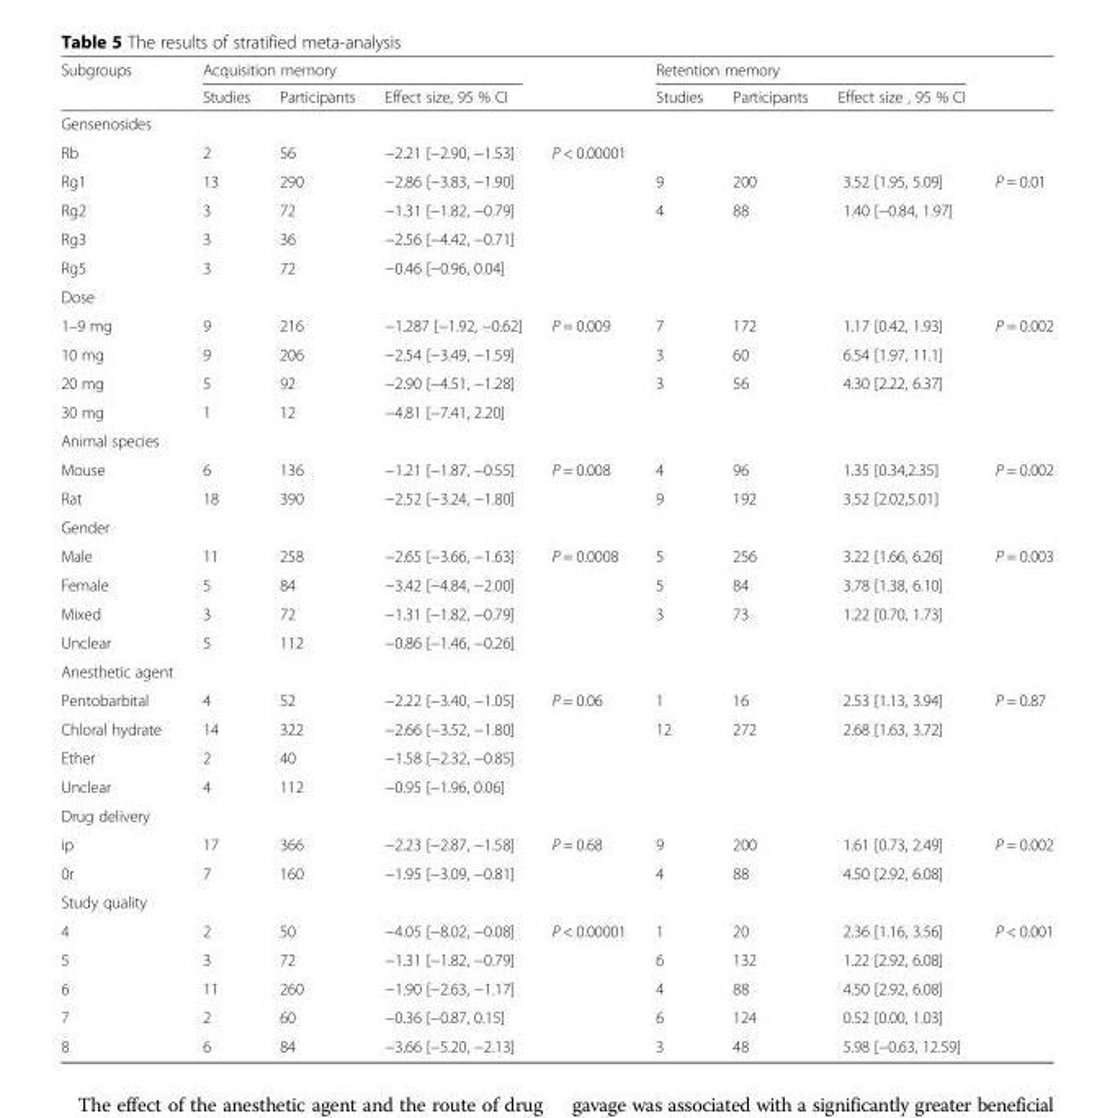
<table><thead><tr><td rowspan="2">Subgroups</td><td colspan="3">Acquisition memory</td><td rowspan="2"></td><td colspan="3">Retention memory</td><td rowspan="2"></td></tr><tr><td>Studies</td><td>Participants</td><td>Effect size, 95 % CI</td><td>Studies</td><td>Participants</td><td>Effect size , 95 % CI</td></tr></thead><tbody><tr><td colspan="9">Gensenosides</td></tr><tr><td>Rb</td><td>2</td><td>56</td><td>−2.21 [−2.90, −1.53]</td><td>P &lt; 0.00001</td><td></td><td></td><td></td><td></td></tr><tr><td>Rg1</td><td>13</td><td>290</td><td>−2.86 [−3.83, −1.90]</td><td></td><td>9</td><td>200</td><td>3.52 [1.95, 5.09]</td><td>P = 0.01</td></tr><tr><td>Rg2</td><td>3</td><td>72</td><td>−1.31 [−1.82, −0.79]</td><td></td><td>4</td><td>88</td><td>1.40 [−0.84, 1.97]</td><td></td></tr><tr><td>Rg3</td><td>3</td><td>36</td><td>−2.56 [−4.42, −0.71]</td><td></td><td></td><td></td><td></td><td></td></tr><tr><td>Rg5</td><td>3</td><td>72</td><td>−0.46 [−0.96, 0.04]</td><td></td><td></td><td></td><td></td><td></td></tr><tr><td colspan="9">Dose</td></tr><tr><td>1–9 mg</td><td>9</td><td>216</td><td>−1.287 [−1.92, −0.62]</td><td>P = 0.009</td><td>7</td><td>172</td><td>1.17 [0.42, 1.93]</td><td>P = 0.002</td></tr><tr><td>10 mg</td><td>9</td><td>206</td><td>−2.54 [−3.49, −1.59]</td><td></td><td>3</td><td>60</td><td>6.54 [1.97, 11.1]</td><td></td></tr><tr><td>20 mg</td><td>5</td><td>92</td><td>−2.90 [−4.51, −1.28]</td><td></td><td>3</td><td>56</td><td>4.30 [2.22, 6.37]</td><td></td></tr><tr><td>30 mg</td><td>1</td><td>12</td><td>−4.81 [−7.41, 2.20]</td><td></td><td></td><td></td><td></td><td></td></tr><tr><td colspan="9">Animal species</td></tr><tr><td>Mouse</td><td>6</td><td>136</td><td>−1.21 [−1.87, −0.55]</td><td>P = 0.008</td><td>4</td><td>96</td><td>1.35 [0.34,2.35]</td><td>P = 0.002</td></tr><tr><td>Rat</td><td>18</td><td>390</td><td>−2.52 [−3.24, −1.80]</td><td></td><td>9</td><td>192</td><td>3.52 [2.02,5.01]</td><td></td></tr><tr><td colspan="9">Gender</td></tr><tr><td>Male</td><td>11</td><td>258</td><td>−2.65 [−3.66, −1.63]</td><td>P = 0.0008</td><td>5</td><td>256</td><td>3.22 [1.66, 6.26]</td><td>P = 0.003</td></tr><tr><td>Female</td><td>5</td><td>84</td><td>−3.42 [−4.84, −2.00]</td><td></td><td>5</td><td>84</td><td>3.78 [1.38, 6.10]</td><td></td></tr><tr><td>Mixed</td><td>3</td><td>72</td><td>−1.31 [−1.82, −0.79]</td><td></td><td>3</td><td>73</td><td>1.22 [0.70, 1.73]</td><td></td></tr><tr><td>Unclear</td><td>5</td><td>112</td><td>−0.86 [−1.46, −0.26]</td><td></td><td></td><td></td><td></td><td></td></tr><tr><td colspan="9">Anesthetic agent</td></tr><tr><td>Pentobarbital</td><td>4</td><td>52</td><td>−2.22 [−3.40, −1.05]</td><td>P = 0.06</td><td>1</td><td>16</td><td>2.53 [1.13, 3.94]</td><td>P = 0.87</td></tr><tr><td>Chloral hydrate</td><td>14</td><td>322</td><td>−2.66 [−3.52, −1.80]</td><td></td><td>12</td><td>272</td><td>2.68 [1.63, 3.72]</td><td></td></tr><tr><td>Ether</td><td>2</td><td>40</td><td>−1.58 [−2.32, −0.85]</td><td></td><td></td><td></td><td></td><td></td></tr><tr><td>Unclear</td><td>4</td><td>112</td><td>−0.95 [−1.96, 0.06]</td><td></td><td></td><td></td><td></td><td></td></tr><tr><td colspan="9">Drug delivery</td></tr><tr><td>ip</td><td>17</td><td>366</td><td>−2.23 [−2.87, −1.58]</td><td>P = 0.68</td><td>9</td><td>200</td><td>1.61 [0.73, 2.49]</td><td>P = 0.002</td></tr><tr><td>0r</td><td>7</td><td>160</td><td>−1.95 [−3.09, −0.81]</td><td></td><td>4</td><td>88</td><td>4.50 [2.92, 6.08]</td><td></td></tr><tr><td colspan="9">Study quality</td></tr><tr><td>4</td><td>2</td><td>50</td><td>−4.05 [−8.02, −0.08]</td><td>P &lt; 0.00001</td><td>1</td><td>20</td><td>2.36 [1.16, 3.56]</td><td>P &lt; 0.001</td></tr><tr><td>5</td><td>3</td><td>72</td><td>−1.31 [−1.82, −0.79]</td><td></td><td>6</td><td>132</td><td>1.22 [2.92, 6.08]</td><td></td></tr><tr><td>6</td><td>11</td><td>260</td><td>−1.90 [−2.63, −1.17]</td><td></td><td>4</td><td>88</td><td>4.50 [2.92, 6.08]</td><td></td></tr><tr><td>7</td><td>2</td><td>60</td><td>−0.36 [−0.87, 0.15]</td><td></td><td>6</td><td>124</td><td>0.52 [0.00, 1.03]</td><td></td></tr><tr><td>8</td><td>6</td><td>84</td><td>−3.66 [−5.20, −2.13]</td><td></td><td>3</td><td>48</td><td>5.98 [−0.63, 12.59]</td><td></td></tr></tbody></table>